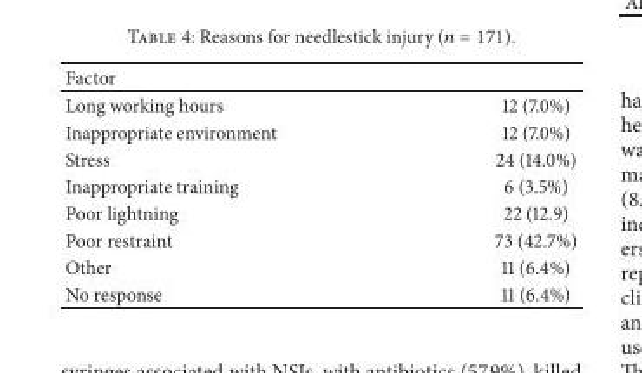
<table><thead><tr><td>Factor</td><td></td></tr></thead><tbody><tr><td>Long working hours</td><td>12 (7.0%)</td></tr><tr><td>Inappropriate environment</td><td>12 (7.0%)</td></tr><tr><td>Stress</td><td>24 (14.0%)</td></tr><tr><td>Inappropriate training</td><td>6 (3.5%)</td></tr><tr><td>Poor lightning</td><td>22 (12.9)</td></tr><tr><td>Poor restraint</td><td>73 (42.7%)</td></tr><tr><td>Other</td><td>11 (6.4%)</td></tr><tr><td>No response</td><td>11 (6.4%)</td></tr></tbody></table>